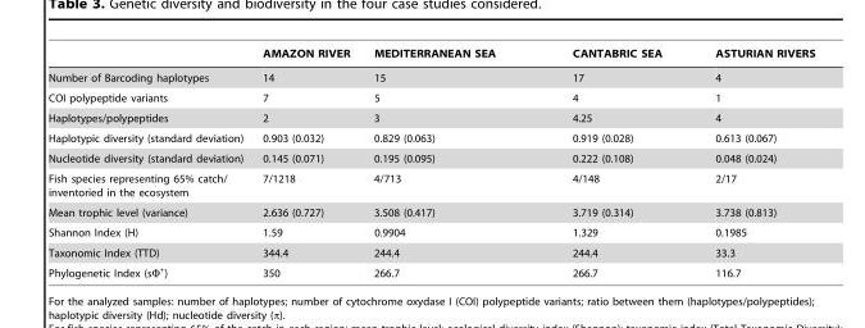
<table><thead><tr><td></td><td>AMAZON RIVER</td><td>MEDITERRANEAN SEA</td><td>CANTABRIC SEA</td><td>ASTURIAN RIVERS</td></tr></thead><tbody><tr><td>Number of Barcoding haplotypes</td><td>14</td><td>15</td><td>17</td><td>4</td></tr><tr><td>COI polypeptide variants</td><td>7</td><td>5</td><td>4</td><td>1</td></tr><tr><td>Haplotypes/polypeptides</td><td>2</td><td>3</td><td>4.25</td><td>4</td></tr><tr><td>Haplotypic diversity (standard deviation)</td><td>0.903 (0.032)</td><td>0.829 (0.063)</td><td>0.919 (0.028)</td><td>0.613 (0.067)</td></tr><tr><td>Nucleotide diversity (standard deviation)</td><td>0.145 (0.071)</td><td>0.195 (0.095)</td><td>0.222 (0.108)</td><td>0.048 (0.024)</td></tr><tr><td>Fish species representing 65% catch/ inventoried in the ecosystem</td><td>7/1218</td><td>4/713</td><td>4/148</td><td>2/17</td></tr><tr><td>Mean trophic level (variance)</td><td>2.636 (0.727)</td><td>3.508 (0.417)</td><td>3.719 (0.314)</td><td>3.738 (0.813)</td></tr><tr><td>Shannon Index (H)</td><td>1.59</td><td>0.9904</td><td>1.329</td><td>0.1985</td></tr><tr><td>Taxonomic Index (TTD)</td><td>344.4</td><td>244.4</td><td>244.4</td><td>33.3</td></tr><tr><td>Phylogenetic Index (sΦ<sup>+</sup>)</td><td>350</td><td>266.7</td><td>266.7</td><td>116.7</td></tr></tbody></table>